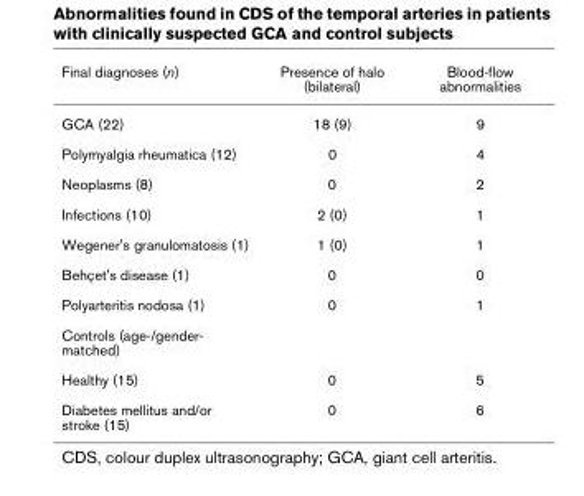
<table><thead><tr><td>Final diagnoses (n)</td><td>Presence of halo (bilateral)</td><td>Blood-flow abnormalities</td></tr></thead><tbody><tr><td>GCA (22)</td><td>18 (9)</td><td>9</td></tr><tr><td>Polymyalgia rheumatica (12)</td><td>0</td><td>4</td></tr><tr><td>Neoplasms (8)</td><td>0</td><td>2</td></tr><tr><td>Infections (10)</td><td>2 (0)</td><td>1</td></tr><tr><td>Wegener&#x27;s granulomatosis (1)</td><td>1 (0)</td><td>1</td></tr><tr><td>Behçet&#x27;s disease (1)</td><td>0</td><td>0</td></tr><tr><td>Polyarteritis nodosa (1)</td><td>0</td><td>1</td></tr><tr><td colspan="3">Controls (age-/gender- matched)</td></tr><tr><td>Healthy (15)</td><td>0</td><td>5</td></tr><tr><td>Diabetes mellitus and/or stroke (15)</td><td>0</td><td>6</td></tr></tbody></table>